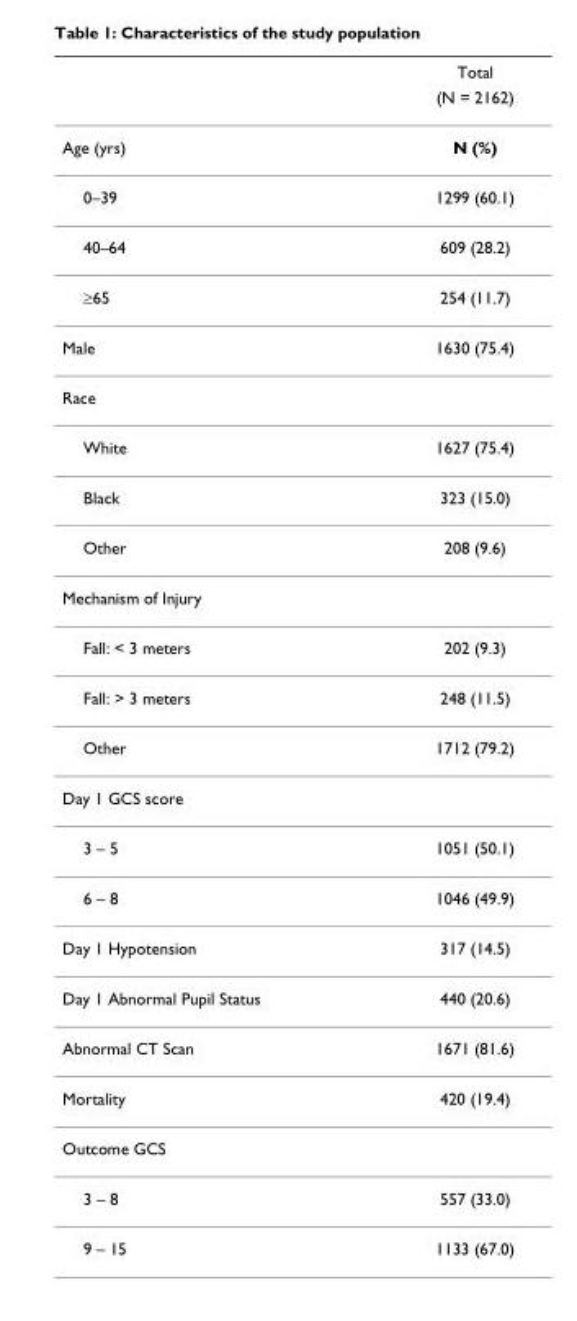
<table><thead><tr><td rowspan="2"></td><td rowspan="2">Total (N = 2162)</td></tr><tr></tr></thead><tbody><tr><td>Age (yrs)</td><td>N (%)</td></tr><tr><td>0–39</td><td>1299 (60.1)</td></tr><tr><td>40–64</td><td>609 (28.2)</td></tr><tr><td>≥65</td><td>254 (11.7)</td></tr><tr><td>Male</td><td>1630 (75.4)</td></tr><tr><td colspan="2">Race</td></tr><tr><td>White</td><td>1627 (75.4)</td></tr><tr><td>Black</td><td>323 (15.0)</td></tr><tr><td>Other</td><td>208 (9.6)</td></tr><tr><td colspan="2">Mechanism of Injury</td></tr><tr><td>Fall: &lt; 3 meters</td><td>202 (9.3)</td></tr><tr><td>Fall: &gt; 3 meters</td><td>248 (11.5)</td></tr><tr><td>Other</td><td>1712 (79.2)</td></tr><tr><td colspan="2">Day 1 GCS score</td></tr><tr><td>3 – 5</td><td>1051 (50.1)</td></tr><tr><td>6 – 8</td><td>1046 (49.9)</td></tr><tr><td>Day 1 Hypotension</td><td>317 (14.5)</td></tr><tr><td>Day 1 Abnormal Pupil Status</td><td>440 (20.6)</td></tr><tr><td>Abnormal CT Scan</td><td>1671 (81.6)</td></tr><tr><td>Mortality</td><td>420 (19.4)</td></tr><tr><td colspan="2">Outcome GCS</td></tr><tr><td>3 – 8</td><td>557 (33.0)</td></tr><tr><td>9 – 15</td><td>1133 (67.0)</td></tr></tbody></table>